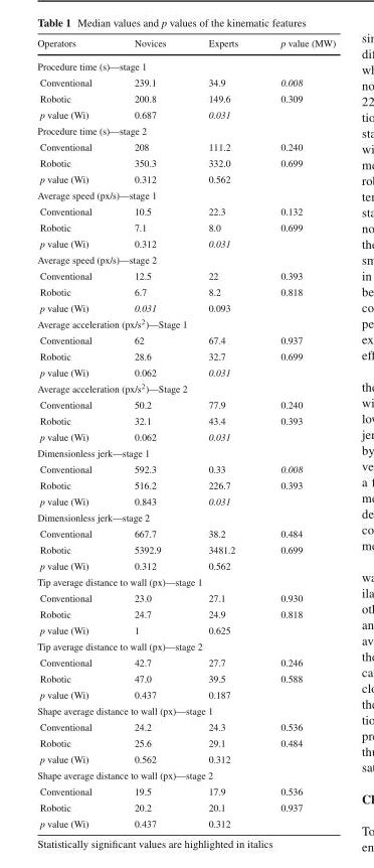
<table><thead><tr><td>Operators</td><td>Novices</td><td>Experts</td><td>p value (MW)</td></tr></thead><tbody><tr><td colspan="4">Procedure time (s)—stage 1</td></tr><tr><td>Conventional</td><td>239.1</td><td>34.9</td><td>0.008</td></tr><tr><td>Robotic</td><td>200.8</td><td>149.6</td><td>0.309</td></tr><tr><td>p value (Wi)</td><td>0.687</td><td>0.031</td><td></td></tr><tr><td colspan="4">Procedure time (s)—stage 2</td></tr><tr><td>Conventional</td><td>208</td><td>111.2</td><td>0.240</td></tr><tr><td>Robotic</td><td>350.3</td><td>332.0</td><td>0.699</td></tr><tr><td>p value (Wi)</td><td>0.312</td><td>0.562</td><td></td></tr><tr><td colspan="4">Average speed (px/s)—stage 1</td></tr><tr><td>Conventional</td><td>10.5</td><td>22.3</td><td>0.132</td></tr><tr><td>Robotic</td><td>7.1</td><td>8.0</td><td>0.699</td></tr><tr><td>p value (Wi)</td><td>0.312</td><td>0.031</td><td></td></tr><tr><td colspan="4">Average speed (px/s)—stage 2</td></tr><tr><td>Conventional</td><td>12.5</td><td>22</td><td>0.393</td></tr><tr><td>Robotic</td><td>6.7</td><td>8.2</td><td>0.818</td></tr><tr><td>p value (Wi)</td><td>0.031</td><td>0.093</td><td></td></tr><tr><td colspan="4">Average acceleration (px/s<sup>2</sup>)—Stage 1</td></tr><tr><td>Conventional</td><td>62</td><td>67.4</td><td>0.937</td></tr><tr><td>Robotic</td><td>28.6</td><td>32.7</td><td>0.699</td></tr><tr><td>p value (Wi)</td><td>0.062</td><td>0.031</td><td></td></tr><tr><td colspan="4">Average acceleration (px/s<sup>2</sup>)—Stage 2</td></tr><tr><td>Conventional</td><td>50.2</td><td>77.9</td><td>0.240</td></tr><tr><td>Robotic</td><td>32.1</td><td>43.4</td><td>0.393</td></tr><tr><td>p value (Wi)</td><td>0.062</td><td>0.031</td><td></td></tr><tr><td colspan="4">Dimensionless jerk—stage 1</td></tr><tr><td>Conventional</td><td>592.3</td><td>0.33</td><td>0.008</td></tr><tr><td>Robotic</td><td>516.2</td><td>226.7</td><td>0.393</td></tr><tr><td>p value (Wi)</td><td>0.843</td><td>0.031</td><td></td></tr><tr><td colspan="4">Dimensionless jerk—stage 2</td></tr><tr><td>Conventional</td><td>667.7</td><td>38.2</td><td>0.484</td></tr><tr><td>Robotic</td><td>5392.9</td><td>3481.2</td><td>0.699</td></tr><tr><td>p value (Wi)</td><td>0.312</td><td>0.562</td><td></td></tr><tr><td colspan="4">Tip average distance to wall (px)—stage 1</td></tr><tr><td>Conventional</td><td>23.0</td><td>27.1</td><td>0.930</td></tr><tr><td>Robotic</td><td>24.7</td><td>24.9</td><td>0.818</td></tr><tr><td>p value (Wi)</td><td>1</td><td>0.625</td><td></td></tr><tr><td colspan="4">Tip average distance to wall (px)—stage 2</td></tr><tr><td>Conventional</td><td>42.7</td><td>27.7</td><td>0.246</td></tr><tr><td>Robotic</td><td>47.0</td><td>39.5</td><td>0.588</td></tr><tr><td>p value (Wi)</td><td>0.437</td><td>0.187</td><td></td></tr><tr><td colspan="4">Shape average distance to wall (px)—stage 1</td></tr><tr><td>Conventional</td><td>24.2</td><td>24.3</td><td>0.536</td></tr><tr><td>Robotic</td><td>25.6</td><td>29.1</td><td>0.484</td></tr><tr><td>p value (Wi)</td><td>0.562</td><td>0.312</td><td></td></tr><tr><td colspan="4">Shape average distance to wall (px)—stage 2</td></tr><tr><td>Conventional</td><td>19.5</td><td>17.9</td><td>0.536</td></tr><tr><td>Robotic</td><td>20.2</td><td>20.1</td><td>0.937</td></tr><tr><td>p value (Wi)</td><td>0.437</td><td>0.312</td><td></td></tr></tbody></table>